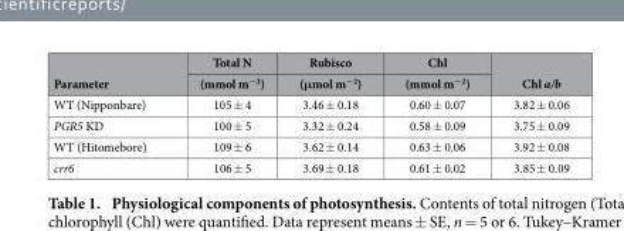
<table><thead><tr><td rowspan="2">Parameter</td><td rowspan="2">Total N (mmol m<sup>−2</sup>)</td><td rowspan="2">Rubisco (μmol m<sup>−2</sup>)</td><td rowspan="2">Chl (mmol m<sup>−2</sup>)</td><td rowspan="2">Chl a/b</td></tr><tr></tr></thead><tbody><tr><td>WT (Nipponbare)</td><td>105 ± 4</td><td>3.46 ± 0.18</td><td>0.60 ± 0.07</td><td>3.82 ± 0.06</td></tr><tr><td>PGR5 KD</td><td>100 ± 5</td><td>3.32 ± 0.24</td><td>0.58 ± 0.09</td><td>3.75 ± 0.09</td></tr><tr><td>WT (Hitomebore)</td><td>109 ± 6</td><td>3.62 ± 0.14</td><td>0.63 ± 0.06</td><td>3.92 ± 0.08</td></tr><tr><td>crr6</td><td>106 ± 5</td><td>3.69 ± 0.18</td><td>0.61 ± 0.02</td><td>3.85 ± 0.09</td></tr></tbody></table>